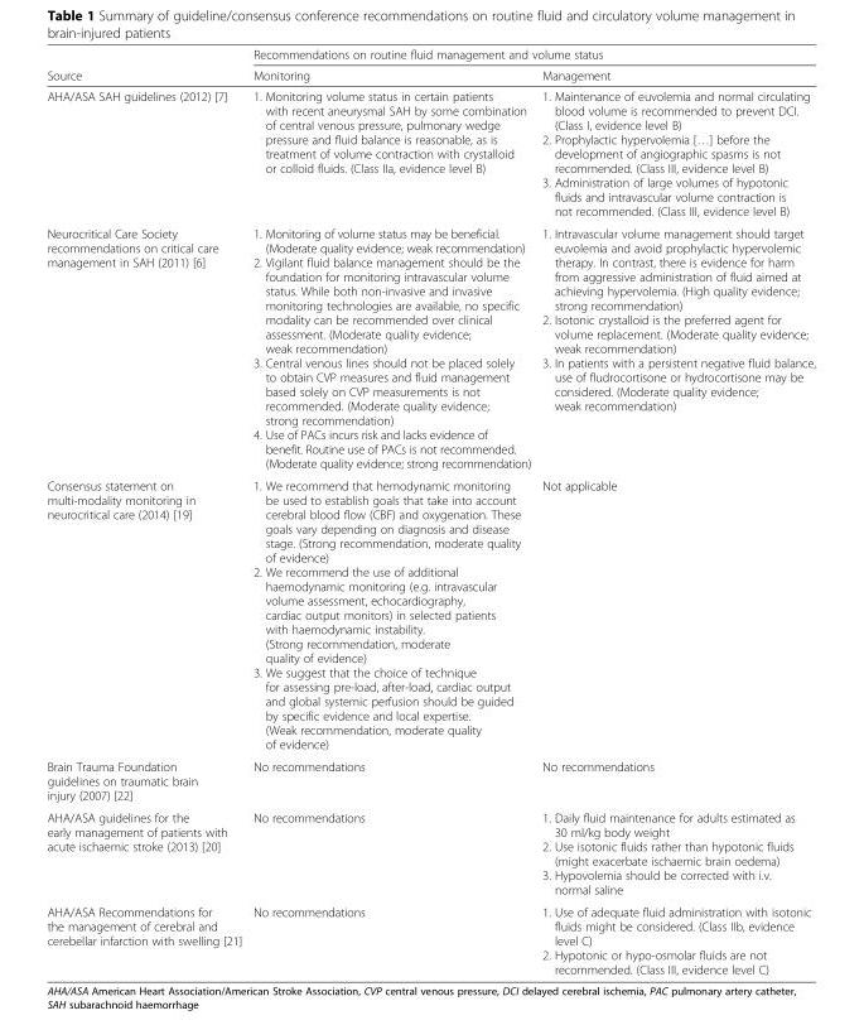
<table><thead><tr><td rowspan="2">Source</td><td colspan="2">Recommendations on routine fluid management and volume status</td></tr><tr><td>Monitoring</td><td>Management</td></tr></thead><tbody><tr><td>AHA/ASA SAH guidelines (2012) [7]</td><td>1. Monitoring volume status in certain patients with recent aneurysmal SAH by some combination of central venous pressure, pulmonary wedge pressure and fluid balance is reasonable, as is treatment of volume contraction with crystalloid or colloid fluids. (Class IIa, evidence level B)</td><td>1. Maintenance of euvolemia and normal circulating blood volume is recommended to prevent DCI. (Class I, evidence level B) 2. Prophylactic hypervolemia […] before the development of angiographic spasms is not recommended. (Class III, evidence level B) 3. Administration of large volumes of hypotonic fluids and intravascular volume contraction is not recommended. (Class III, evidence level B)</td></tr><tr><td>Neurocritical Care Society recommendations on critical care management in SAH (2011) [6]</td><td>1. Monitoring of volume status may be beneficial. (Moderate quality evidence; weak recommendation) 2. Vigilant fluid balance management should be the foundation for monitoring intravascular volume status. While both non-invasive and invasive monitoring technologies are available, no specific modality can be recommended over clinical assessment. (Moderate quality evidence; weak recommendation) 3. Central venous lines should not be placed solely to obtain CVP measures and fluid management based solely on CVP measurements is not recommended. (Moderate quality evidence; strong recommendation) 4. Use of PACs incurs risk and lacks evidence of benefit. Routine use of PACs is not recommended. (Moderate quality evidence; strong recommendation)</td><td>1. Intravascular volume management should target euvolemia and avoid prophylactic hypervolemic therapy. In contrast, there is evidence for harm from aggressive administration of fluid aimed at achieving hypervolemia. (High quality evidence; strong recommendation) 2. Isotonic crystalloid is the preferred agent for volume replacement. (Moderate quality evidence; weak recommendation) 3. In patients with a persistent negative fluid balance, use of fludrocortisone or hydrocortisone may be considered. (Moderate quality evidence; weak recommendation)</td></tr><tr><td>Consensus statement on multi-modality monitoring in neurocritical care (2014) [19]</td><td>1. We recommend that hemodynamic monitoring be used to establish goals that take into account cerebral blood flow (CBF) and oxygenation. These goals vary depending on diagnosis and disease stage. (Strong recommendation, moderate quality of evidence) 2. We recommend the use of additional haemodynamic monitoring (e.g. intravascular volume assessment, echocardiography, cardiac output monitors) in selected patients with haemodynamic instability. (Strong recommendation, moderate quality of evidence) 3. We suggest that the choice of technique for assessing pre-load, after-load, cardiac output and global systemic perfusion should be guided by specific evidence and local expertise. (Weak recommendation, moderate quality of evidence)</td><td>Not applicable</td></tr><tr><td>Brain Trauma Foundation guidelines on traumatic brain injury (2007) [22]</td><td>No recommendations</td><td>No recommendations</td></tr><tr><td>AHA/ASA guidelines for the early management of patients with acute ischaemic stroke (2013) [20]</td><td>No recommendations</td><td>1. Daily fluid maintenance for adults estimated as 30 ml/kg body weight 2. Use isotonic fluids rather than hypotonic fluids (might exacerbate ischaemic brain oedema) 3. Hypovolemia should be corrected with i.v. normal saline</td></tr><tr><td>AHA/ASA Recommendations for the management of cerebral and cerebellar infarction with swelling [21]</td><td>No recommendations</td><td>1. Use of adequate fluid administration with isotonic fluids might be considered. (Class IIb, evidence level C) 2. Hypotonic or hypo-osmolar fluids are not recommended. (Class III, evidence level C)</td></tr></tbody></table>